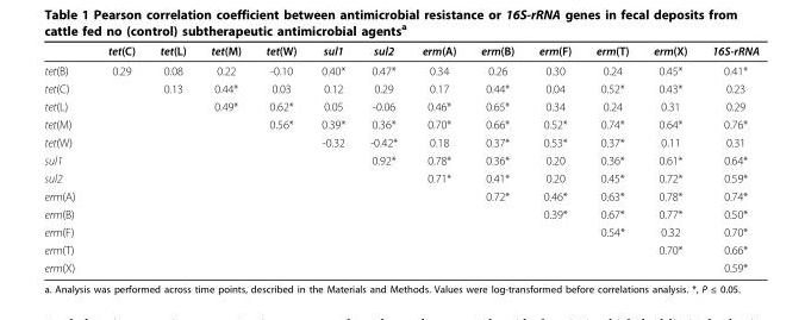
<table><thead><tr><td></td><td>tet(C)</td><td>tet(L)</td><td>tet(M)</td><td>tet(W)</td><td>sul1</td><td>sul2</td><td>erm(A)</td><td>erm(B)</td><td>erm(F)</td><td>erm(T)</td><td>erm(X)</td><td>16S-rRNA</td></tr></thead><tbody><tr><td>tet(B)</td><td>0.29</td><td>0.08</td><td>0.22</td><td>-0.10</td><td>0.40*</td><td>0.47*</td><td>0.34</td><td>0.26</td><td>0.30</td><td>0.24</td><td>0.45*</td><td>0.41*</td></tr><tr><td>tet(C)</td><td></td><td>0.13</td><td>0.44*</td><td>0.03</td><td>0.12</td><td>0.29</td><td>0.17</td><td>0.44*</td><td>0.04</td><td>0.52*</td><td>0.43*</td><td>0.23</td></tr><tr><td>tet(L)</td><td></td><td></td><td>0.49*</td><td>0.62*</td><td>0.05</td><td>-0.06</td><td>0.46*</td><td>0.65*</td><td>0.34</td><td>0.24</td><td>0.31</td><td>0.29</td></tr><tr><td>tet(M)</td><td></td><td></td><td></td><td>0.56*</td><td>0.39*</td><td>0.36*</td><td>0.70*</td><td>0.66*</td><td>0.52*</td><td>0.74*</td><td>0.64*</td><td>0.76*</td></tr><tr><td>tet(W)</td><td></td><td></td><td></td><td></td><td>-0.32</td><td>-0.42*</td><td>0.18</td><td>0.37*</td><td>0.53*</td><td>0.37*</td><td>0.11</td><td>0.31</td></tr><tr><td>sul1</td><td></td><td></td><td></td><td></td><td></td><td>0.92*</td><td>0.78*</td><td>0.36*</td><td>0.20</td><td>0.36*</td><td>0.61*</td><td>0.64*</td></tr><tr><td>sul2</td><td></td><td></td><td></td><td></td><td></td><td></td><td>0.71*</td><td>0.41*</td><td>0.20</td><td>0.45*</td><td>0.72*</td><td>0.59*</td></tr><tr><td>erm(A)</td><td></td><td></td><td></td><td></td><td></td><td></td><td></td><td>0.72*</td><td>0.46*</td><td>0.63*</td><td>0.78*</td><td>0.74*</td></tr><tr><td>erm(B)</td><td></td><td></td><td></td><td></td><td></td><td></td><td></td><td></td><td>0.39*</td><td>0.67*</td><td>0.77*</td><td>0.50*</td></tr><tr><td>erm(F)</td><td></td><td></td><td></td><td></td><td></td><td></td><td></td><td></td><td></td><td>0.54*</td><td>0.32</td><td>0.70*</td></tr><tr><td>erm(T)</td><td></td><td></td><td></td><td></td><td></td><td></td><td></td><td></td><td></td><td></td><td>0.70*</td><td>0.66*</td></tr><tr><td>erm(X)</td><td></td><td></td><td></td><td></td><td></td><td></td><td></td><td></td><td></td><td></td><td></td><td>0.59*</td></tr></tbody></table>